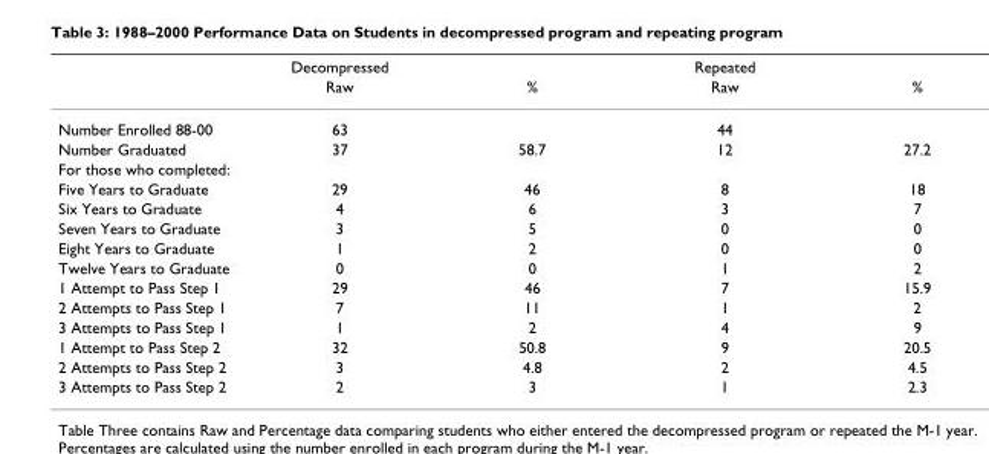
<table><thead><tr><td rowspan="2"></td><td rowspan="2">Decompressed Raw</td><td rowspan="2">%</td><td rowspan="2">Repeated Raw</td><td rowspan="2">%</td></tr><tr></tr></thead><tbody><tr><td>Number Enrolled 88-00</td><td>63</td><td></td><td>44</td><td></td></tr><tr><td>Number Graduated</td><td>37</td><td>58.7</td><td>12</td><td>27.2</td></tr><tr><td colspan="5">For those who completed:</td></tr><tr><td>Five Years to Graduate</td><td>29</td><td>46</td><td>8</td><td>18</td></tr><tr><td>Six Years to Graduate</td><td>4</td><td>6</td><td>3</td><td>7</td></tr><tr><td>Seven Years to Graduate</td><td>3</td><td>5</td><td>0</td><td>0</td></tr><tr><td>Eight Years to Graduate</td><td>1</td><td>2</td><td>0</td><td>0</td></tr><tr><td>Twelve Years to Graduate</td><td>0</td><td>0</td><td>1</td><td>2</td></tr><tr><td>1 Attempt to Pass Step 1</td><td>29</td><td>46</td><td>7</td><td>15.9</td></tr><tr><td>2 Attempts to Pass Step 1</td><td>7</td><td>11</td><td>1</td><td>2</td></tr><tr><td>3 Attempts to Pass Step 1</td><td>1</td><td>2</td><td>4</td><td>9</td></tr><tr><td>1 Attempt to Pass Step 2</td><td>32</td><td>50.8</td><td>9</td><td>20.5</td></tr><tr><td>2 Attempts to Pass Step 2</td><td>3</td><td>4.8</td><td>2</td><td>4.5</td></tr><tr><td>3 Attempts to Pass Step 2</td><td>2</td><td>3</td><td>1</td><td>2.3</td></tr></tbody></table>